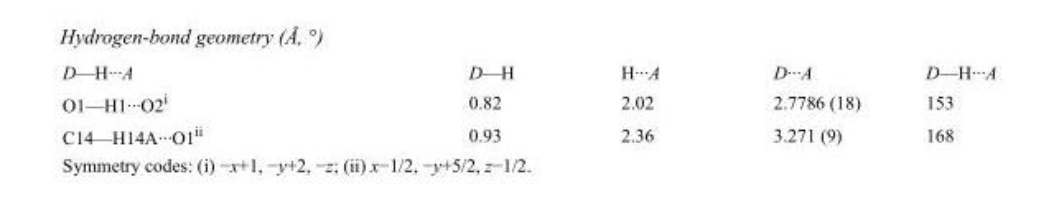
<table><tbody><tr><td>D—H···A</td><td>D—H</td><td>H···A</td><td>D···A</td><td>D—H···A</td></tr><tr><td>O1—H1···O2<sup>i</sup></td><td>0.82</td><td>2.02</td><td>2.7786 (18)</td><td>153</td></tr><tr><td>C14—H14A···O1<sup>ii</sup></td><td>0.93</td><td>2.36</td><td>3.271 (9)</td><td>168</td></tr></tbody></table>